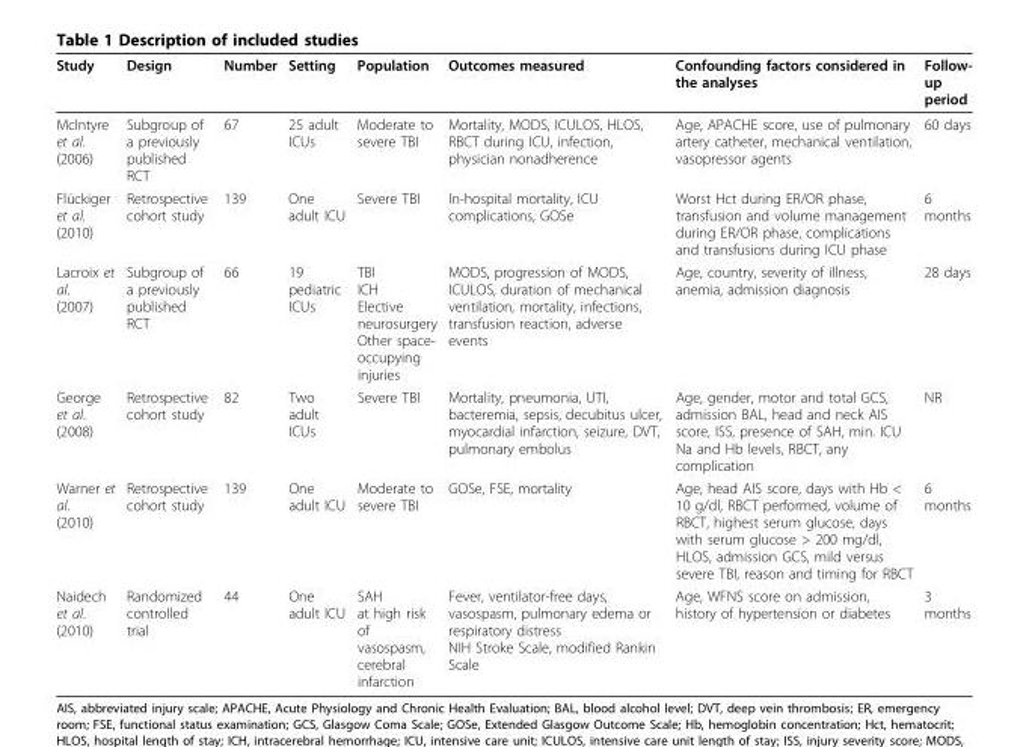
<table><thead><tr><td>Study</td><td>Design</td><td>Number</td><td>Setting</td><td>Population</td><td>Outcomes measured</td><td>Confounding factors considered in the analyses</td><td>Follow- up period</td></tr></thead><tbody><tr><td>McIntyre et al. (2006)</td><td>Subgroup of a previously published RCT</td><td>67</td><td>25 adult ICUs</td><td>Moderate to severe TBI</td><td>Mortality, MODS, ICULOS, HLOS, RBCT during ICU, infection, physician nonadherence</td><td>Age, APACHE score, use of pulmonary artery catheter, mechanical ventilation, vasopressor agents</td><td>60 days</td></tr><tr><td>Flückiger et al. (2010)</td><td>Retrospective cohort study</td><td>139</td><td>One adult ICU</td><td>Severe TBI</td><td>In-hospital mortality, ICU complications, GOSe</td><td>Worst Hct during ER/OR phase, transfusion and volume management during ER/OR phase, complications and transfusions during ICU phase</td><td>6 months</td></tr><tr><td>Lacroix et al. (2007)</td><td>Subgroup of a previously published RCT</td><td>66</td><td>19 pediatric ICUs</td><td>TBI ICH Elective neurosurgery Other space- occupying injuries</td><td>MODS, progression of MODS, ICULOS, duration of mechanical ventilation, mortality, infections, transfusion reaction, adverse events</td><td>Age, country, severity of illness, anemia, admission diagnosis</td><td>28 days</td></tr><tr><td>George et al. (2008)</td><td>Retrospective cohort study</td><td>82</td><td>Two adult ICUs</td><td>Severe TBI</td><td>Mortality, pneumonia, UTI, bacteremia, sepsis, decubitus ulcer, myocardial infarction, seizure, DVT, pulmonary embolus</td><td>Age, gender, motor and total GCS, admission BAL, head and neck AIS score, ISS, presence of SAH, min. ICU Na and Hb levels, RBCT, any complication</td><td>NR</td></tr><tr><td>Warner et al. (2010)</td><td>Retrospective cohort study</td><td>139</td><td>One adult ICU</td><td>Moderate to severe TBI</td><td>GOSe, FSE, mortality</td><td>Age, head AIS score, days with Hb &lt; 10 g/dl, RBCT performed, volume of RBCT, highest serum glucose, days with serum glucose &gt; 200 mg/dl, HLOS, admission GCS, mild versus severe TBI, reason and timing for RBCT</td><td>6 months</td></tr><tr><td>Naidech et al. (2010)</td><td>Randomized controlled trial</td><td>44</td><td>One adult ICU</td><td>SAH at high risk of vasospasm, cerebral infarction</td><td>Fever, ventilator-free days, vasospasm, pulmonary edema or respiratory distress NIH Stroke Scale, modified Rankin Scale</td><td>Age, WFNS score on admission, history of hypertension or diabetes</td><td>3 months</td></tr></tbody></table>